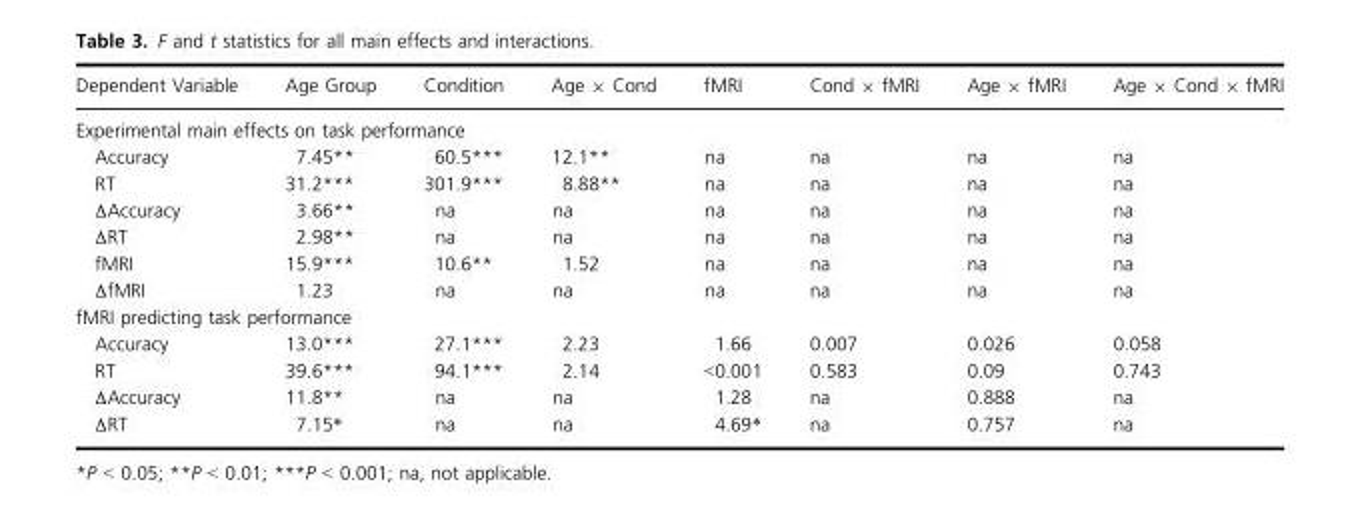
<table><thead><tr><td>Dependent Variable</td><td>Age Group</td><td>Condition</td><td>Age × Cond</td><td>fMRI</td><td>Cond × fMRI</td><td>Age × fMRI</td><td>Age × Cond × fMRI</td></tr></thead><tbody><tr><td colspan="8">Experimental main effects on task performance</td></tr><tr><td>Accuracy</td><td>7.45**</td><td>60.5***</td><td>12.1**</td><td>na</td><td>na</td><td>na</td><td>na</td></tr><tr><td>RT</td><td>31.2***</td><td>301.9***</td><td>8.88**</td><td>na</td><td>na</td><td>na</td><td>na</td></tr><tr><td>ΔAccuracy</td><td>3.66**</td><td>na</td><td>na</td><td>na</td><td>na</td><td>na</td><td>na</td></tr><tr><td>ΔRT</td><td>2.98**</td><td>na</td><td>na</td><td>na</td><td>na</td><td>na</td><td>na</td></tr><tr><td>fMRI</td><td>15.9***</td><td>10.6**</td><td>1.52</td><td>na</td><td>na</td><td>na</td><td>na</td></tr><tr><td>ΔfMRI</td><td>1.23</td><td>na</td><td>na</td><td>na</td><td>na</td><td>na</td><td>na</td></tr><tr><td colspan="8">fMRI predicting task performance</td></tr><tr><td>Accuracy</td><td>13.0***</td><td>27.1***</td><td>2.23</td><td>1.66</td><td>0.007</td><td>0.026</td><td>0.058</td></tr><tr><td>RT</td><td>39.6***</td><td>94.1***</td><td>2.14</td><td>&lt;0.001</td><td>0.583</td><td>0.09</td><td>0.743</td></tr><tr><td>ΔAccuracy</td><td>11.8**</td><td>na</td><td>na</td><td>1.28</td><td>na</td><td>0.888</td><td>na</td></tr><tr><td>ΔRT</td><td>7.15*</td><td>na</td><td>na</td><td>4.69*</td><td>na</td><td>0.757</td><td>na</td></tr></tbody></table>